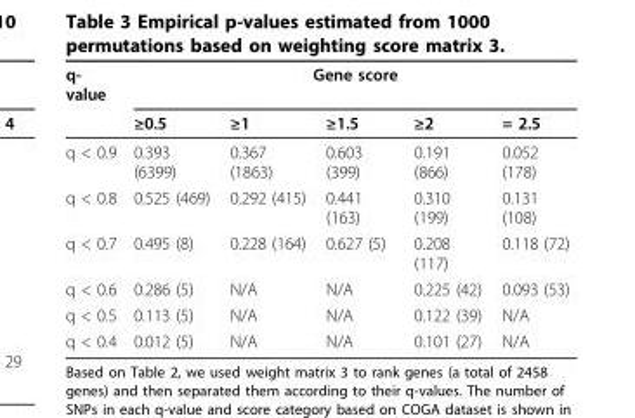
<table><thead><tr><td rowspan="2">q- value</td><td colspan="5">Gene score</td></tr><tr><td>≥0.5</td><td>≥1</td><td>≥1.5</td><td>≥2</td><td>= 2.5</td></tr></thead><tbody><tr><td>q &lt; 0.9</td><td>0.393 (6399)</td><td>0.367 (1863)</td><td>0.603 (399)</td><td>0.191 (866)</td><td>0.052 (178)</td></tr><tr><td>q &lt; 0.8</td><td>0.525 (469)</td><td>0.292 (415)</td><td>0.441 (163)</td><td>0.310 (199)</td><td>0.131 (108)</td></tr><tr><td>q &lt; 0.7</td><td>0.495 (8)</td><td>0.228 (164)</td><td>0.627 (5)</td><td>0.208 (117)</td><td>0.118 (72)</td></tr><tr><td>q &lt; 0.6</td><td>0.286 (5)</td><td>N/A</td><td>N/A</td><td>0.225 (42)</td><td>0.093 (53)</td></tr><tr><td>q &lt; 0.5</td><td>0.113 (5)</td><td>N/A</td><td>N/A</td><td>0.122 (39)</td><td>N/A</td></tr><tr><td>q &lt; 0.4</td><td>0.012 (5)</td><td>N/A</td><td>N/A</td><td>0.101 (27)</td><td>N/A</td></tr></tbody></table>